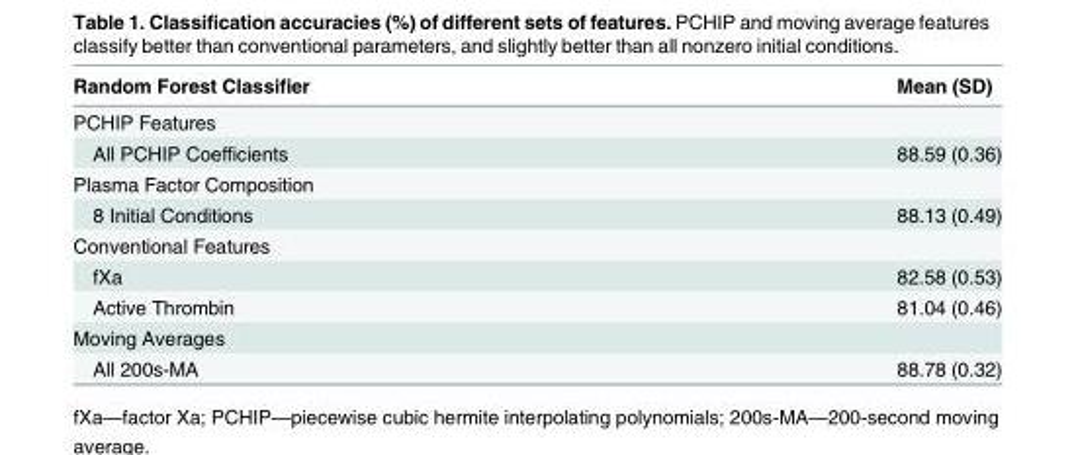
<table><thead><tr><td>Random Forest Classifier</td><td>Mean (SD)</td></tr></thead><tbody><tr><td colspan="2">PCHIP Features</td></tr><tr><td>All PCHIP Coefficients</td><td>88.59 (0.36)</td></tr><tr><td colspan="2">Plasma Factor Composition</td></tr><tr><td>8 Initial Conditions</td><td>88.13 (0.49)</td></tr><tr><td colspan="2">Conventional Features</td></tr><tr><td>fXa</td><td>82.58 (0.53)</td></tr><tr><td>Active Thrombin</td><td>81.04 (0.46)</td></tr><tr><td colspan="2">Moving Averages</td></tr><tr><td>All 200s-MA</td><td>88.78 (0.32)</td></tr></tbody></table>